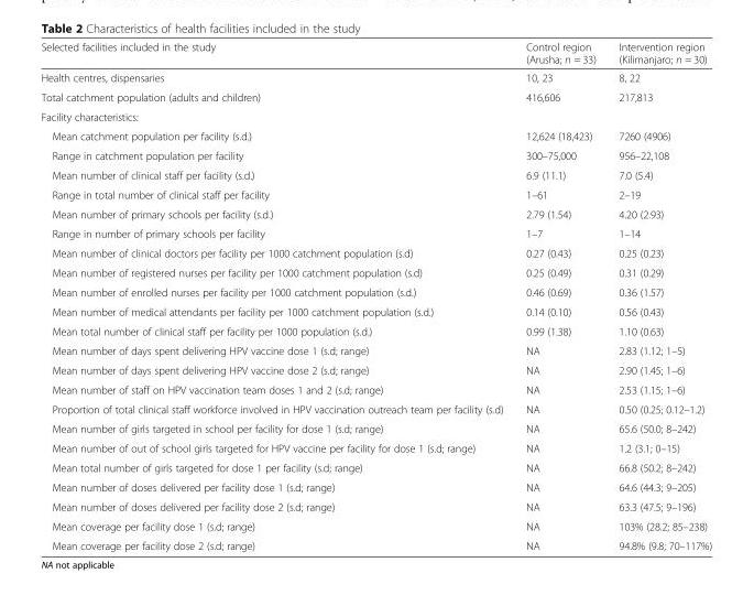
<table><thead><tr><td>Selected facilities included in the study</td><td>Control region (Arusha; n = 33)</td><td>Intervention region (Kilimanjaro; n = 30)</td></tr></thead><tbody><tr><td>Health centres, dispensaries</td><td>10, 23</td><td>8, 22</td></tr><tr><td>Total catchment population (adults and children)</td><td>416,606</td><td>217,813</td></tr><tr><td colspan="3">Facility characteristics:</td></tr><tr><td>Mean catchment population per facility (s.d.)</td><td>12,624 (18,423)</td><td>7260 (4906)</td></tr><tr><td>Range in catchment population per facility</td><td>300–75,000</td><td>956–22,108</td></tr><tr><td>Mean number of clinical staff per facility (s.d.)</td><td>6.9 (11.1)</td><td>7.0 (5.4)</td></tr><tr><td>Range in total number of clinical staff per facility</td><td>1–61</td><td>2–19</td></tr><tr><td>Mean number of primary schools per facility (s.d.)</td><td>2.79 (1.54)</td><td>4.20 (2.93)</td></tr><tr><td>Range in number of primary schools per facility</td><td>1–7</td><td>1–14</td></tr><tr><td>Mean number of clinical doctors per facility per 1000 catchment population (s.d)</td><td>0.27 (0.43)</td><td>0.25 (0.23)</td></tr><tr><td>Mean number of registered nurses per facility per 1000 catchment population (s.d)</td><td>0.25 (0.49)</td><td>0.31 (0.29)</td></tr><tr><td>Mean number of enrolled nurses per facility per 1000 catchment population (s.d.)</td><td>0.46 (0.69)</td><td>0.36 (1.57)</td></tr><tr><td>Mean number of medical attendants per facility per 1000 catchment population (s.d.)</td><td>0.14 (0.10)</td><td>0.56 (0.43)</td></tr><tr><td>Mean total number of clinical staff per facility per 1000 population (s.d.)</td><td>0.99 (1.38)</td><td>1.10 (0.63)</td></tr><tr><td>Mean number of days spent delivering HPV vaccine dose 1 (s.d; range)</td><td>NA</td><td>2.83 (1.12; 1–5)</td></tr><tr><td>Mean number of days spent delivering HPV vaccine dose 2 (s.d; range)</td><td>NA</td><td>2.90 (1.45; 1–6)</td></tr><tr><td>Mean number of staff on HPV vaccination team doses 1 and 2 (s.d; range)</td><td>NA</td><td>2.53 (1.15; 1–6)</td></tr><tr><td>Proportion of total clinical staff workforce involved in HPV vaccination outreach team per facility (s.d)</td><td>NA</td><td>0.50 (0.25; 0.12–1.2)</td></tr><tr><td>Mean number of girls targeted in school per facility for dose 1 (s.d; range)</td><td>NA</td><td>65.6 (50.0; 8–242)</td></tr><tr><td>Mean number of out of school girls targeted for HPV vaccine per facility for dose 1 (s.d; range)</td><td>NA</td><td>1.2 (3.1; 0–15)</td></tr><tr><td>Mean total number of girls targeted for dose 1 per facility (s.d; range)</td><td>NA</td><td>66.8 (50.2; 8–242)</td></tr><tr><td>Mean number of doses delivered per facility dose 1 (s.d; range)</td><td>NA</td><td>64.6 (44.3; 9–205)</td></tr><tr><td>Mean number of doses delivered per facility dose 2 (s.d; range)</td><td>NA</td><td>63.3 (47.5; 9–196)</td></tr><tr><td>Mean coverage per facility dose 1 (s.d; range)</td><td>NA</td><td>103% (28.2; 85–238)</td></tr><tr><td>Mean coverage per facility dose 2 (s.d; range)</td><td>NA</td><td>94.8% (9.8; 70–117%)</td></tr></tbody></table>